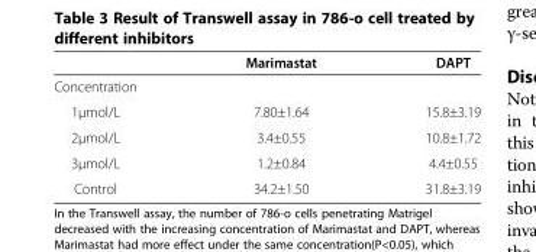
<table><thead><tr><td></td><td>Marimastat</td><td>DAPT</td></tr></thead><tbody><tr><td colspan="3">Concentration</td></tr><tr><td>1μmol/L</td><td>7.80±1.64</td><td>15.8±3.19</td></tr><tr><td>2μmol/L</td><td>3.4±0.55</td><td>10.8±1.72</td></tr><tr><td>3μmol/L</td><td>1.2±0.84</td><td>4.4±0.55</td></tr><tr><td>Control</td><td>34.2±1.50</td><td>31.8±3.19</td></tr></tbody></table>